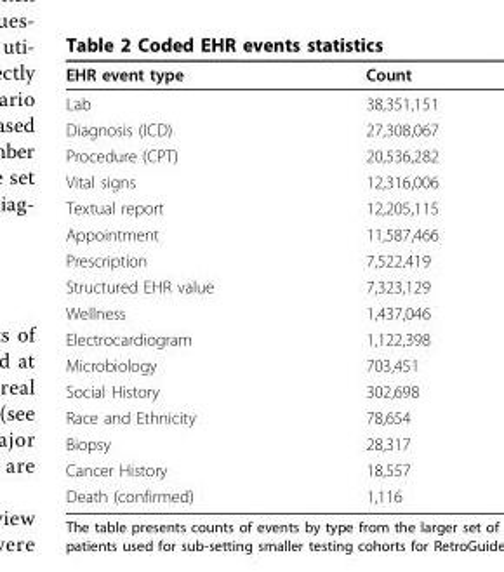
<table><thead><tr><td>EHR event type</td><td>Count</td></tr></thead><tbody><tr><td>Lab</td><td>38,351,151</td></tr><tr><td>Diagnosis (ICD)</td><td>27,308,067</td></tr><tr><td>Procedure (CPT)</td><td>20,536,282</td></tr><tr><td>Vital signs</td><td>12,316,006</td></tr><tr><td>Textual report</td><td>12,205,115</td></tr><tr><td>Appointment</td><td>11,587,466</td></tr><tr><td>Prescription</td><td>7,522,419</td></tr><tr><td>Structured EHR value</td><td>7,323,129</td></tr><tr><td>Wellness</td><td>1,437,046</td></tr><tr><td>Electrocardiogram</td><td>1,122,398</td></tr><tr><td>Microbiology</td><td>703,451</td></tr><tr><td>Social History</td><td>302,698</td></tr><tr><td>Race and Ethnicity</td><td>78,654</td></tr><tr><td>Biopsy</td><td>28,317</td></tr><tr><td>Cancer History</td><td>18,557</td></tr><tr><td>Death (confirmed)</td><td>1,116</td></tr></tbody></table>